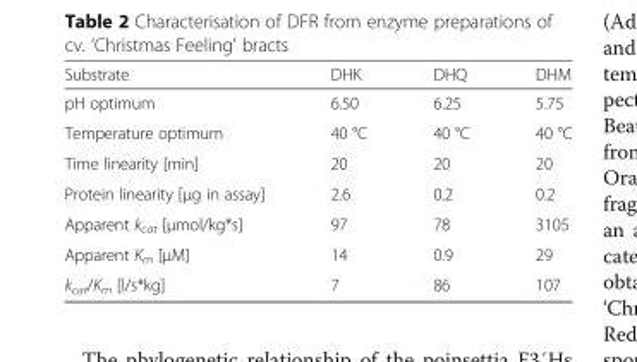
<table><thead><tr><td>Substrate</td><td>DHK</td><td>DHQ</td><td>DHM</td></tr></thead><tbody><tr><td>pH optimum</td><td>6.50</td><td>6.25</td><td>5.75</td></tr><tr><td>Temperature optimum</td><td>40 °C</td><td>40 °C</td><td>40 °C</td></tr><tr><td>Time linearity [min]</td><td>20</td><td>20</td><td>20</td></tr><tr><td>Protein linearity [μg in assay]</td><td>2.6</td><td>0.2</td><td>0.2</td></tr><tr><td>Apparent k<sub>cat</sub> [μmol/kg*s]</td><td>97</td><td>78</td><td>3105</td></tr><tr><td>Apparent K<sub>m</sub> [μM]</td><td>14</td><td>0.9</td><td>29</td></tr><tr><td>k<sub>cat</sub>/K<sub>m</sub> [l/s*kg]</td><td>7</td><td>86</td><td>107</td></tr></tbody></table>